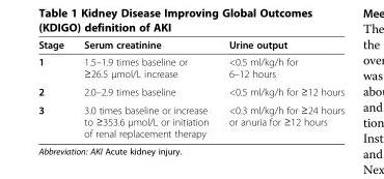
<table><thead><tr><td>Stage</td><td>Serum creatinine</td><td>Urine output</td></tr></thead><tbody><tr><td>1</td><td>1.5–1.9 times baseline or ≥26.5 μmol/L increase</td><td>&lt;0.5 ml/kg/h for 6–12 hours</td></tr><tr><td>2</td><td>2.0–2.9 times baseline</td><td>&lt;0.5 ml/kg/h for ≥12 hours</td></tr><tr><td>3</td><td>3.0 times baseline or increase to ≥353.6 μmol/L or initiation of renal replacement therapy</td><td>&lt;0.3 ml/kg/h for ≥24 hours or anuria for ≥12 hours</td></tr></tbody></table>